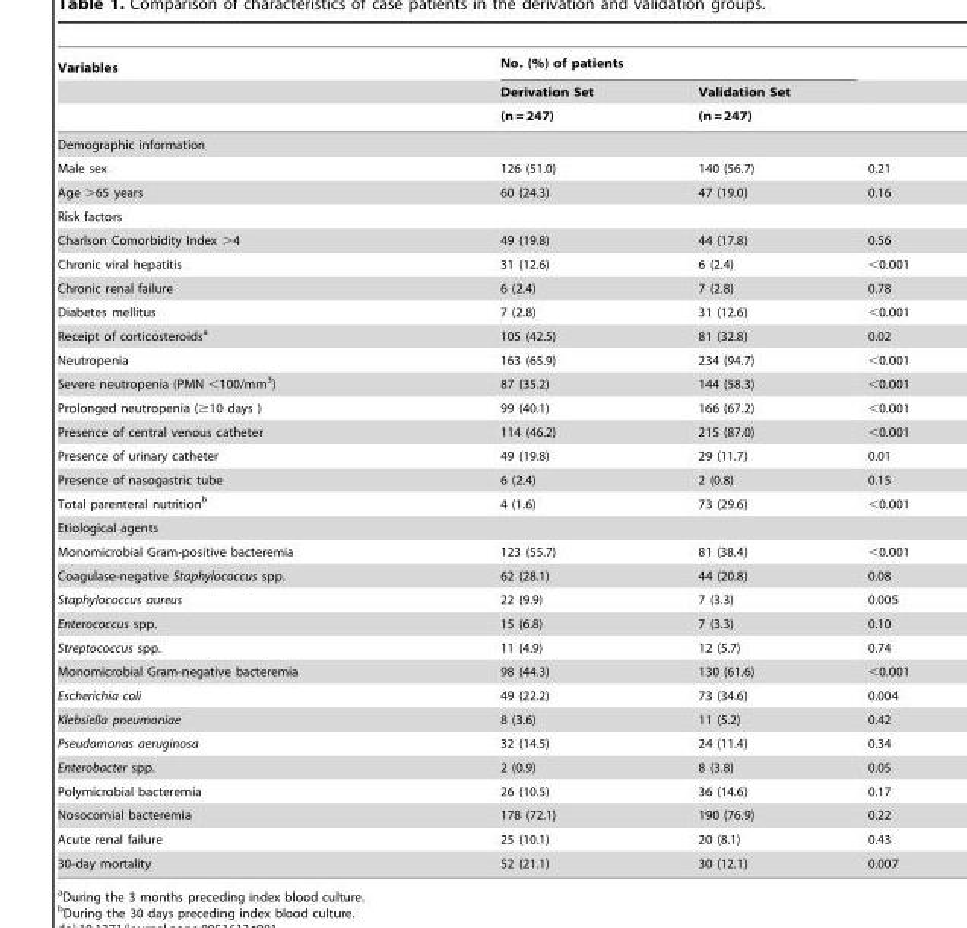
<table><thead><tr><td rowspan="3">Variables</td><td colspan="2">No. (%) of patients</td><td rowspan="3"></td></tr><tr><td rowspan="2">Derivation Set (n = 247)</td><td rowspan="2">Validation Set (n = 247)</td></tr><tr></tr></thead><tbody><tr><td colspan="4">Demographic information</td></tr><tr><td>Male sex</td><td>126 (51.0)</td><td>140 (56.7)</td><td>0.21</td></tr><tr><td>Age &gt;65 years</td><td>60 (24.3)</td><td>47 (19.0)</td><td>0.16</td></tr><tr><td colspan="4">Risk factors</td></tr><tr><td>Charlson Comorbidity Index &gt;4</td><td>49 (19.8)</td><td>44 (17.8)</td><td>0.56</td></tr><tr><td>Chronic viral hepatitis</td><td>31 (12.6)</td><td>6 (2.4)</td><td>&lt;0.001</td></tr><tr><td>Chronic renal failure</td><td>6 (2.4)</td><td>7 (2.8)</td><td>0.78</td></tr><tr><td>Diabetes mellitus</td><td>7 (2.8)</td><td>31 (12.6)</td><td>&lt;0.001</td></tr><tr><td>Receipt of corticosteroids<sup>a</sup></td><td>105 (42.5)</td><td>81 (32.8)</td><td>0.02</td></tr><tr><td>Neutropenia</td><td>163 (65.9)</td><td>234 (94.7)</td><td>&lt;0.001</td></tr><tr><td>Severe neutropenia (PMN &lt;100/mm<sup>3</sup>)</td><td>87 (35.2)</td><td>144 (58.3)</td><td>&lt;0.001</td></tr><tr><td>Prolonged neutropenia (≥10 days )</td><td>99 (40.1)</td><td>166 (67.2)</td><td>&lt;0.001</td></tr><tr><td>Presence of central venous catheter</td><td>114 (46.2)</td><td>215 (87.0)</td><td>&lt;0.001</td></tr><tr><td>Presence of urinary catheter</td><td>49 (19.8)</td><td>29 (11.7)</td><td>0.01</td></tr><tr><td>Presence of nasogastric tube</td><td>6 (2.4)</td><td>2 (0.8)</td><td>0.15</td></tr><tr><td>Total parenteral nutrition<sup>b</sup></td><td>4 (1.6)</td><td>73 (29.6)</td><td>&lt;0.001</td></tr><tr><td colspan="4">Etiological agents</td></tr><tr><td>Monomicrobial Gram-positive bacteremia</td><td>123 (55.7)</td><td>81 (38.4)</td><td>&lt;0.001</td></tr><tr><td>Coagulase-negative Staphylococcus spp.</td><td>62 (28.1)</td><td>44 (20.8)</td><td>0.08</td></tr><tr><td>Staphylococcus aureus</td><td>22 (9.9)</td><td>7 (3.3)</td><td>0.005</td></tr><tr><td>Enterococcus spp.</td><td>15 (6.8)</td><td>7 (3.3)</td><td>0.10</td></tr><tr><td>Streptococcus spp.</td><td>11 (4.9)</td><td>12 (5.7)</td><td>0.74</td></tr><tr><td>Monomicrobial Gram-negative bacteremia</td><td>98 (44.3)</td><td>130 (61.6)</td><td>&lt;0.001</td></tr><tr><td>Escherichia coli</td><td>49 (22.2)</td><td>73 (34.6)</td><td>0.004</td></tr><tr><td>Klebsiella pneumoniae</td><td>8 (3.6)</td><td>11 (5.2)</td><td>0.42</td></tr><tr><td>Pseudomonas aeruginosa</td><td>32 (14.5)</td><td>24 (11.4)</td><td>0.34</td></tr><tr><td>Enterobacter spp.</td><td>2 (0.9)</td><td>8 (3.8)</td><td>0.05</td></tr><tr><td>Polymicrobial bacteremia</td><td>26 (10.5)</td><td>36 (14.6)</td><td>0.17</td></tr><tr><td>Nosocomial bacteremia</td><td>178 (72.1)</td><td>190 (76.9)</td><td>0.22</td></tr><tr><td>Acute renal failure</td><td>25 (10.1)</td><td>20 (8.1)</td><td>0.43</td></tr><tr><td>30-day mortality</td><td>52 (21.1)</td><td>30 (12.1)</td><td>0.007</td></tr></tbody></table>